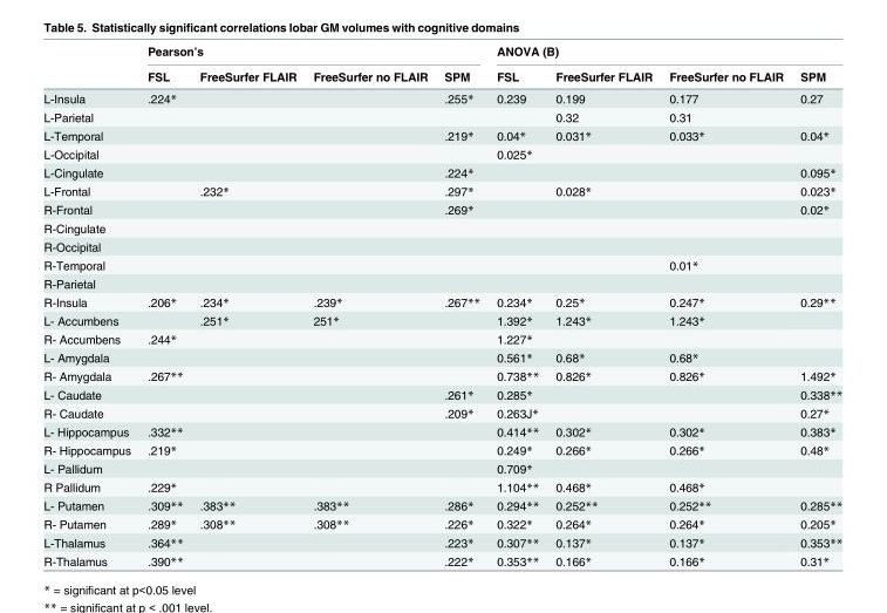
<table><thead><tr><td rowspan="2"></td><td colspan="4">Pearson’s</td><td colspan="4">ANOVA (B)</td></tr><tr><td>FSL</td><td>FreeSurfer FLAIR</td><td>FreeSurfer no FLAIR</td><td>SPM</td><td>FSL</td><td>FreeSurfer FLAIR</td><td>FreeSurfer no FLAIR</td><td>SPM</td></tr></thead><tbody><tr><td>L-Insula</td><td>.224*</td><td></td><td></td><td>.255*</td><td>0.239</td><td>0.199</td><td>0.177</td><td>0.27</td></tr><tr><td>L-Parietal</td><td></td><td></td><td></td><td></td><td></td><td>0.32</td><td>0.31</td><td></td></tr><tr><td>L-Temporal</td><td></td><td></td><td></td><td>.219*</td><td>0.04*</td><td>0.031*</td><td>0.033*</td><td>0.04*</td></tr><tr><td>L-Occipital</td><td></td><td></td><td></td><td></td><td>0.025*</td><td></td><td></td><td></td></tr><tr><td>L-Cingulate</td><td></td><td></td><td></td><td>.224*</td><td></td><td></td><td></td><td>0.095*</td></tr><tr><td>L-Frontal</td><td></td><td>.232*</td><td></td><td>.297*</td><td></td><td>0.028*</td><td></td><td>0.023*</td></tr><tr><td>R-Frontal</td><td></td><td></td><td></td><td>.269*</td><td></td><td></td><td></td><td>0.02*</td></tr><tr><td colspan="9">R-Cingulate</td></tr><tr><td colspan="9">R-Occipital</td></tr><tr><td>R-Temporal</td><td></td><td></td><td></td><td></td><td></td><td></td><td>0.01*</td><td></td></tr><tr><td colspan="9">R-Parietal</td></tr><tr><td>R-Insula</td><td>.206*</td><td>.234*</td><td>.239*</td><td>.267**</td><td>0.234*</td><td>0.25*</td><td>0.247*</td><td>0.29**</td></tr><tr><td>L- Accumbens</td><td></td><td>.251*</td><td>251*</td><td></td><td>1.392*</td><td>1.243*</td><td>1.243*</td><td></td></tr><tr><td>R- Accumbens</td><td>.244*</td><td></td><td></td><td></td><td>1.227*</td><td></td><td></td><td></td></tr><tr><td>L- Amygdala</td><td></td><td></td><td></td><td></td><td>0.561*</td><td>0.68*</td><td>0.68*</td><td></td></tr><tr><td>R- Amygdala</td><td>.267**</td><td></td><td></td><td></td><td>0.738**</td><td>0.826*</td><td>0.826*</td><td>1.492*</td></tr><tr><td>L- Caudate</td><td></td><td></td><td></td><td>.261*</td><td>0.285*</td><td></td><td></td><td>0.338**</td></tr><tr><td>R- Caudate</td><td></td><td></td><td></td><td>.209*</td><td>0.263J*</td><td></td><td></td><td>0.27*</td></tr><tr><td>L- Hippocampus</td><td>.332**</td><td></td><td></td><td></td><td>0.414**</td><td>0.302*</td><td>0.302*</td><td>0.383*</td></tr><tr><td>R- Hippocampus</td><td>.219*</td><td></td><td></td><td></td><td>0.249*</td><td>0.266*</td><td>0.266*</td><td>0.48*</td></tr><tr><td>L- Pallidum</td><td></td><td></td><td></td><td></td><td>0.709*</td><td></td><td></td><td></td></tr><tr><td>R Pallidum</td><td>.229*</td><td></td><td></td><td></td><td>1.104**</td><td>0.468*</td><td>0.468*</td><td></td></tr><tr><td>L- Putamen</td><td>.309**</td><td>.383**</td><td>.383**</td><td>.286*</td><td>0.294**</td><td>0.252**</td><td>0.252**</td><td>0.285**</td></tr><tr><td>R- Putamen</td><td>.289*</td><td>.308**</td><td>.308**</td><td>.226*</td><td>0.322*</td><td>0.264*</td><td>0.264*</td><td>0.205*</td></tr><tr><td>L-Thalamus</td><td>.364**</td><td></td><td></td><td>.223*</td><td>0.307**</td><td>0.137*</td><td>0.137*</td><td>0.353**</td></tr><tr><td>R-Thalamus</td><td>.390**</td><td></td><td></td><td>.222*</td><td>0.353**</td><td>0.166*</td><td>0.166*</td><td>0.31*</td></tr></tbody></table>